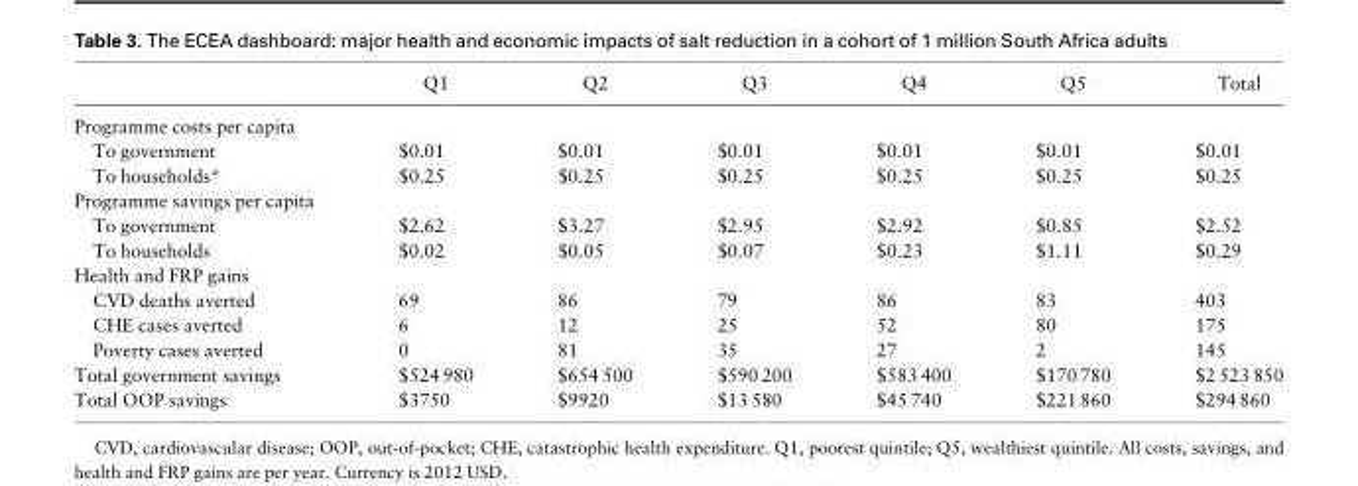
<table><thead><tr><td></td><td>Q1</td><td>Q2</td><td>Q3</td><td>Q4</td><td>Q5</td><td>Total</td></tr></thead><tbody><tr><td colspan="7">Programme costs per capita</td></tr><tr><td>To government</td><td>$0.01</td><td>$0.01</td><td>$0.01</td><td>$0.01</td><td>$0.01</td><td>$0.01</td></tr><tr><td>To households*</td><td>$0.25</td><td>$0.25</td><td>$0.25</td><td>$0.25</td><td>$0.25</td><td>$0.25</td></tr><tr><td colspan="7">Programme savings per capita</td></tr><tr><td>To government</td><td>$2.62</td><td>$3.27</td><td>$2.95</td><td>$2.92</td><td>$0.85</td><td>$2.52</td></tr><tr><td>To households</td><td>$0.02</td><td>$0.05</td><td>$0.07</td><td>$0.23</td><td>$1.11</td><td>$0.29</td></tr><tr><td colspan="7">Health and FRP gains</td></tr><tr><td>CVD deaths averted</td><td>69</td><td>86</td><td>79</td><td>86</td><td>83</td><td>403</td></tr><tr><td>CHE cases averted</td><td>6</td><td>12</td><td>25</td><td>52</td><td>80</td><td>175</td></tr><tr><td>Poverty cases averted</td><td>0</td><td>81</td><td>35</td><td>27</td><td>2</td><td>145</td></tr><tr><td>Total government savings</td><td>$524 980</td><td>$654 500</td><td>$590 200</td><td>$583 400</td><td>$170 780</td><td>$2 523 850</td></tr><tr><td>Total OOP savings</td><td>$3750</td><td>$9920</td><td>$13 580</td><td>$45 740</td><td>$221 860</td><td>$294 860</td></tr></tbody></table>